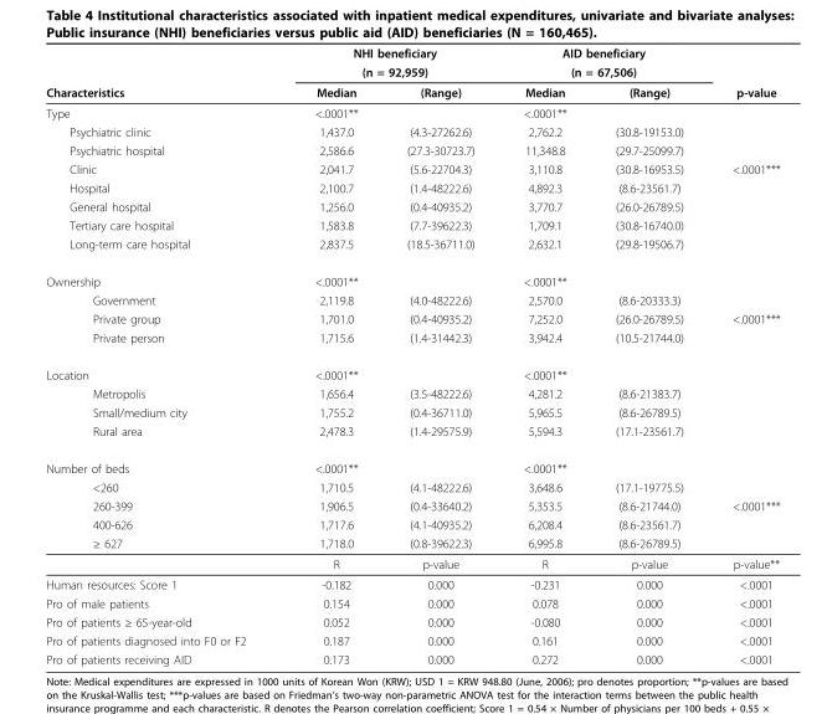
<table><thead><tr><td rowspan="3">Characteristics</td><td rowspan="2" colspan="2">NHI beneficiary (n = 92,959)</td><td rowspan="2" colspan="2">AID beneficiary (n = 67,506)</td><td rowspan="3">p-value</td></tr><tr></tr><tr><td>Median</td><td>(Range)</td><td>Median</td><td>(Range)</td></tr></thead><tbody><tr><td>Type</td><td>&lt;.0001**</td><td></td><td>&lt;.0001**</td><td></td><td></td></tr><tr><td>Psychiatric clinic</td><td>1,437.0</td><td>(4.3-27262.6)</td><td>2,762.2</td><td>(30.8-19153.0)</td><td></td></tr><tr><td>Psychiatric hospital</td><td>2,586.6</td><td>(27.3-30723.7)</td><td>11,348.8</td><td>(29.7-25099.7)</td><td></td></tr><tr><td>Clinic</td><td>2,041.7</td><td>(5.6-22704.3)</td><td>3,110.8</td><td>(30.8-16953.5)</td><td>&lt;.0001***</td></tr><tr><td>Hospital</td><td>2,100.7</td><td>(1.4-48222.6)</td><td>4,892.3</td><td>(8.6-23561.7)</td><td></td></tr><tr><td>General hospital</td><td>1,256.0</td><td>(0.4-40935.2)</td><td>3,770.7</td><td>(26.0-26789.5)</td><td></td></tr><tr><td>Tertiary care hospital</td><td>1,583.8</td><td>(7.7-39622.3)</td><td>1,709.1</td><td>(30.8-16740.0)</td><td></td></tr><tr><td>Long-term care hospital</td><td>2,837.5</td><td>(18.5-36711.0)</td><td>2,632.1</td><td>(29.8-19506.7)</td><td></td></tr><tr><td>Ownership</td><td>&lt;.0001**</td><td></td><td>&lt;.0001**</td><td></td><td></td></tr><tr><td>Government</td><td>2,119.8</td><td>(4.0-48222.6)</td><td>2,570.0</td><td>(8.6-20333.3)</td><td></td></tr><tr><td>Private group</td><td>1,701.0</td><td>(0.4-40935.2)</td><td>7,252.0</td><td>(26.0-26789.5)</td><td>&lt;.0001***</td></tr><tr><td>Private person</td><td>1,715.6</td><td>(1.4-31442.3)</td><td>3,942.4</td><td>(10.5-21744.0)</td><td></td></tr><tr><td>Location</td><td>&lt;.0001**</td><td></td><td>&lt;.0001**</td><td></td><td></td></tr><tr><td>Metropolis</td><td>1,656.4</td><td>(3.5-48222.6)</td><td>4,281.2</td><td>(8.6-21383.7)</td><td></td></tr><tr><td>Small/medium city</td><td>1,755.2</td><td>(0.4-36711.0)</td><td>5,965.5</td><td>(8.6-26789.5)</td><td></td></tr><tr><td>Rural area</td><td>2,478.3</td><td>(1.4-29575.9)</td><td>5,594.3</td><td>(17.1-23561.7)</td><td></td></tr><tr><td>Number of beds</td><td>&lt;.0001**</td><td></td><td>&lt;.0001**</td><td></td><td></td></tr><tr><td>&lt;260</td><td>1,710.5</td><td>(4.1-48222.6)</td><td>3,648.6</td><td>(17.1-19775.5)</td><td></td></tr><tr><td>260-399</td><td>1,906.5</td><td>(0.4-33640.2)</td><td>5,353.5</td><td>(8.6-21744.0)</td><td>&lt;.0001***</td></tr><tr><td>400-626</td><td>1,717.6</td><td>(4.1-40935.2)</td><td>6,208.4</td><td>(8.6-23561.7)</td><td></td></tr><tr><td rowspan="2">≥ 627</td><td>1,718.0</td><td>(0.8-39622.3)</td><td>6,995.8</td><td>(8.6-26789.5)</td><td></td></tr><tr><td>R</td><td>p-value</td><td>R</td><td>p-value</td><td>p-value**</td></tr><tr><td>Human resources: Score 1</td><td>-0.182</td><td>0.000</td><td>-0.231</td><td>0.000</td><td>&lt;.0001</td></tr><tr><td>Pro of male patients</td><td>0.154</td><td>0.000</td><td>0.078</td><td>0.000</td><td>&lt;.0001</td></tr><tr><td>Pro of patients ≥ 65-year-old</td><td>0.052</td><td>0.000</td><td>-0.080</td><td>0.000</td><td>&lt;.0001</td></tr><tr><td>Pro of patients diagnosed into F0 or F2</td><td>0.187</td><td>0.000</td><td>0.161</td><td>0.000</td><td>&lt;.0001</td></tr><tr><td>Pro of patients receiving AID</td><td>0.173</td><td>0.000</td><td>0.272</td><td>0.000</td><td>&lt;.0001</td></tr></tbody></table>